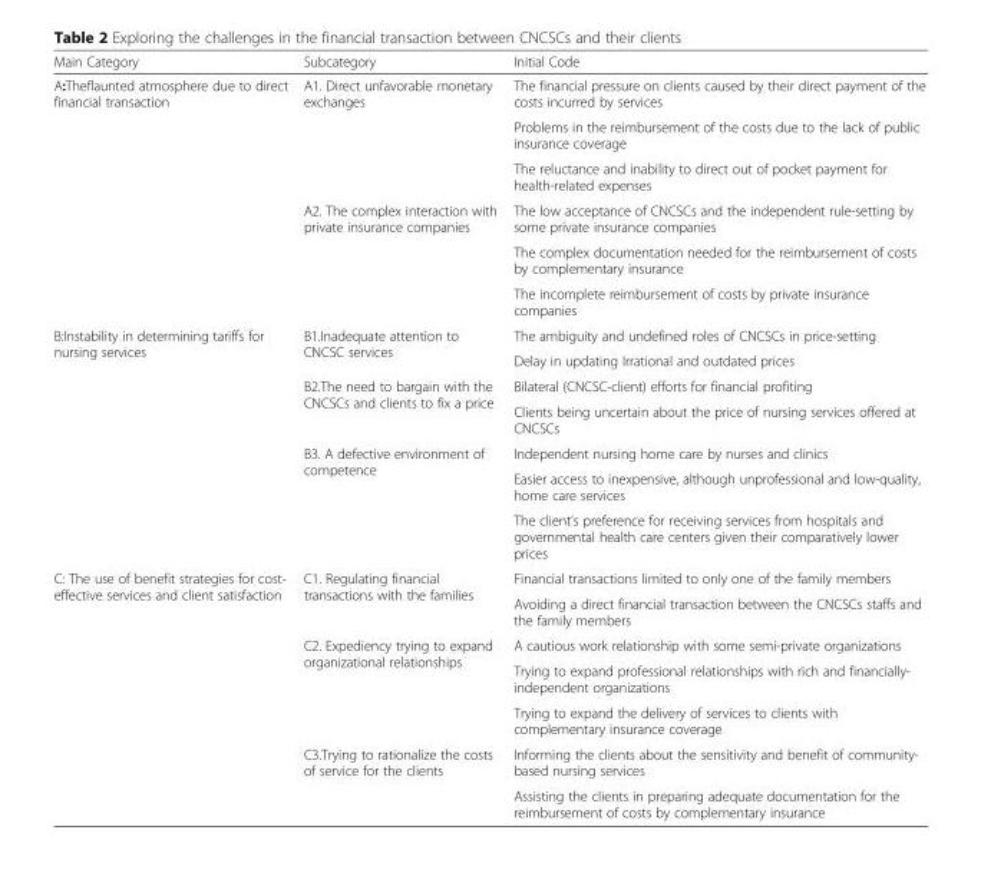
<table><thead><tr><td>Main Category</td><td>Subcategory</td><td>Initial Code</td></tr></thead><tbody><tr><td rowspan="6">A:Theflaunted atmosphere due to direct financial transaction</td><td rowspan="3">A1. Direct unfavorable monetary exchanges</td><td>The financial pressure on clients caused by their direct payment of the costs incurred by services</td></tr><tr><td>Problems in the reimbursement of the costs due to the lack of public insurance coverage</td></tr><tr><td>The reluctance and inability to direct out of pocket payment for health-related expenses</td></tr><tr><td rowspan="3">A2. The complex interaction with private insurance companies</td><td>The low acceptance of CNCSCs and the independent rule-setting by some private insurance companies</td></tr><tr><td>The complex documentation needed for the reimbursement of costs by complementary insurance</td></tr><tr><td>The incomplete reimbursement of costs by private insurance companies</td></tr><tr><td rowspan="7">B:Instability in determining tariffs for nursing services</td><td rowspan="2">B1.Inadequate attention to CNCSC services</td><td>The ambiguity and undefined roles of CNCSCs in price-setting</td></tr><tr><td>Delay in updating Irrational and outdated prices</td></tr><tr><td rowspan="2">B2.The need to bargain with the CNCSCs and clients to fix a price</td><td>Bilateral (CNCSC-client) efforts for financial profiting</td></tr><tr><td>Clients being uncertain about the price of nursing services offered at CNCSCs</td></tr><tr><td rowspan="3">B3. A defective environment of competence</td><td>Independent nursing home care by nurses and clinics</td></tr><tr><td>Easier access to inexpensive, although unprofessional and low-quality, home care services</td></tr><tr><td>The client’s preference for receiving services from hospitals and governmental health care centers given their comparatively lower prices</td></tr><tr><td rowspan="7">C: The use of benefit strategies for cost- effective services and client satisfaction</td><td rowspan="2">C1. Regulating financial transactions with the families</td><td>Financial transactions limited to only one of the family members</td></tr><tr><td>Avoiding a direct financial transaction between the CNCSCs staffs and the family members</td></tr><tr><td rowspan="3">C2. Expediency trying to expand organizational relationships</td><td>A cautious work relationship with some semi-private organizations</td></tr><tr><td>Trying to expand professional relationships with rich and financially- independent organizations</td></tr><tr><td>Trying to expand the delivery of services to clients with complementary insurance coverage</td></tr><tr><td rowspan="2">C3.Trying to rationalize the costs of service for the clients</td><td>Informing the clients about the sensitivity and benefit of community- based nursing services</td></tr><tr><td>Assisting the clients in preparing adequate documentation for the reimbursement of costs by complementary insurance</td></tr></tbody></table>